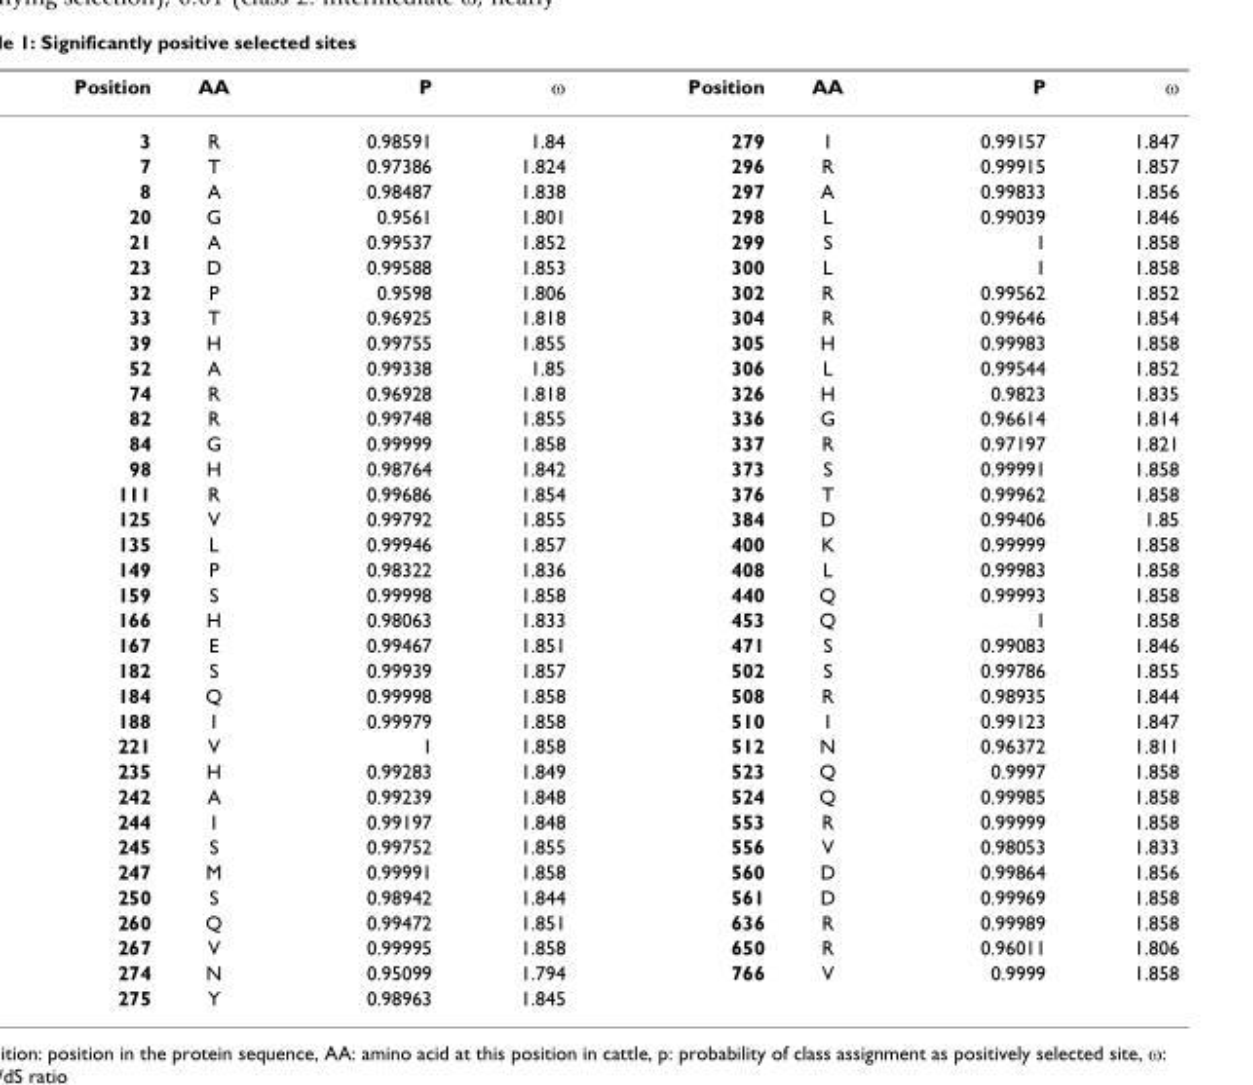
<table><thead><tr><td>Position</td><td>AA</td><td>P</td><td>ω</td><td>Position</td><td>AA</td><td>P</td><td>ω</td></tr></thead><tbody><tr><td>3</td><td>R</td><td>0.98591</td><td>1.84</td><td>279</td><td>I</td><td>0.99157</td><td>1.847</td></tr><tr><td>7</td><td>T</td><td>0.97386</td><td>1.824</td><td>296</td><td>R</td><td>0.99915</td><td>1.857</td></tr><tr><td>8</td><td>A</td><td>0.98487</td><td>1.838</td><td>297</td><td>A</td><td>0.99833</td><td>1.856</td></tr><tr><td>20</td><td>G</td><td>0.9561</td><td>1.801</td><td>298</td><td>L</td><td>0.99039</td><td>1.846</td></tr><tr><td>21</td><td>A</td><td>0.99537</td><td>1.852</td><td>299</td><td>S</td><td>1</td><td>1.858</td></tr><tr><td>23</td><td>D</td><td>0.99588</td><td>1.853</td><td>300</td><td>L</td><td>1</td><td>1.858</td></tr><tr><td>32</td><td>P</td><td>0.9598</td><td>1.806</td><td>302</td><td>R</td><td>0.99562</td><td>1.852</td></tr><tr><td>33</td><td>T</td><td>0.96925</td><td>1.818</td><td>304</td><td>R</td><td>0.99646</td><td>1.854</td></tr><tr><td>39</td><td>H</td><td>0.99755</td><td>1.855</td><td>305</td><td>H</td><td>0.99983</td><td>1.858</td></tr><tr><td>52</td><td>A</td><td>0.99338</td><td>1.85</td><td>306</td><td>L</td><td>0.99544</td><td>1.852</td></tr><tr><td>74</td><td>R</td><td>0.96928</td><td>1.818</td><td>326</td><td>H</td><td>0.9823</td><td>1.835</td></tr><tr><td>82</td><td>R</td><td>0.99748</td><td>1.855</td><td>336</td><td>G</td><td>0.96614</td><td>1.814</td></tr><tr><td>84</td><td>G</td><td>0.99999</td><td>1.858</td><td>337</td><td>R</td><td>0.97197</td><td>1.821</td></tr><tr><td>98</td><td>H</td><td>0.98764</td><td>1.842</td><td>373</td><td>S</td><td>0.99991</td><td>1.858</td></tr><tr><td>111</td><td>R</td><td>0.99686</td><td>1.854</td><td>376</td><td>T</td><td>0.99962</td><td>1.858</td></tr><tr><td>125</td><td>V</td><td>0.99792</td><td>1.855</td><td>384</td><td>D</td><td>0.99406</td><td>1.85</td></tr><tr><td>135</td><td>L</td><td>0.99946</td><td>1.857</td><td>400</td><td>K</td><td>0.99999</td><td>1.858</td></tr><tr><td>149</td><td>P</td><td>0.98322</td><td>1.836</td><td>408</td><td>L</td><td>0.99983</td><td>1.858</td></tr><tr><td>159</td><td>S</td><td>0.99998</td><td>1.858</td><td>440</td><td>Q</td><td>0.99993</td><td>1.858</td></tr><tr><td>166</td><td>H</td><td>0.98063</td><td>1.833</td><td>453</td><td>Q</td><td>1</td><td>1.858</td></tr><tr><td>167</td><td>E</td><td>0.99467</td><td>1.851</td><td>471</td><td>S</td><td>0.99083</td><td>1.846</td></tr><tr><td>182</td><td>S</td><td>0.99939</td><td>1.857</td><td>502</td><td>S</td><td>0.99786</td><td>1.855</td></tr><tr><td>184</td><td>Q</td><td>0.99998</td><td>1.858</td><td>508</td><td>R</td><td>0.98935</td><td>1.844</td></tr><tr><td>188</td><td>I</td><td>0.99979</td><td>1.858</td><td>510</td><td>I</td><td>0.99123</td><td>1.847</td></tr><tr><td>221</td><td>V</td><td>1</td><td>1.858</td><td>512</td><td>N</td><td>0.96372</td><td>1.811</td></tr><tr><td>235</td><td>H</td><td>0.99283</td><td>1.849</td><td>523</td><td>Q</td><td>0.9997</td><td>1.858</td></tr><tr><td>242</td><td>A</td><td>0.99239</td><td>1.848</td><td>524</td><td>Q</td><td>0.99985</td><td>1.858</td></tr><tr><td>244</td><td>I</td><td>0.99197</td><td>1.848</td><td>553</td><td>R</td><td>0.99999</td><td>1.858</td></tr><tr><td>245</td><td>S</td><td>0.99752</td><td>1.855</td><td>556</td><td>V</td><td>0.98053</td><td>1.833</td></tr><tr><td>247</td><td>M</td><td>0.99991</td><td>1.858</td><td>560</td><td>D</td><td>0.99864</td><td>1.856</td></tr><tr><td>250</td><td>S</td><td>0.98942</td><td>1.844</td><td>561</td><td>D</td><td>0.99969</td><td>1.858</td></tr><tr><td>260</td><td>Q</td><td>0.99472</td><td>1.851</td><td>636</td><td>R</td><td>0.99989</td><td>1.858</td></tr><tr><td>267</td><td>V</td><td>0.99995</td><td>1.858</td><td>650</td><td>R</td><td>0.96011</td><td>1.806</td></tr><tr><td>274</td><td>N</td><td>0.95099</td><td>1.794</td><td>766</td><td>V</td><td>0.9999</td><td>1.858</td></tr><tr><td>275</td><td>Y</td><td>0.98963</td><td>1.845</td><td></td><td></td><td></td><td></td></tr></tbody></table>